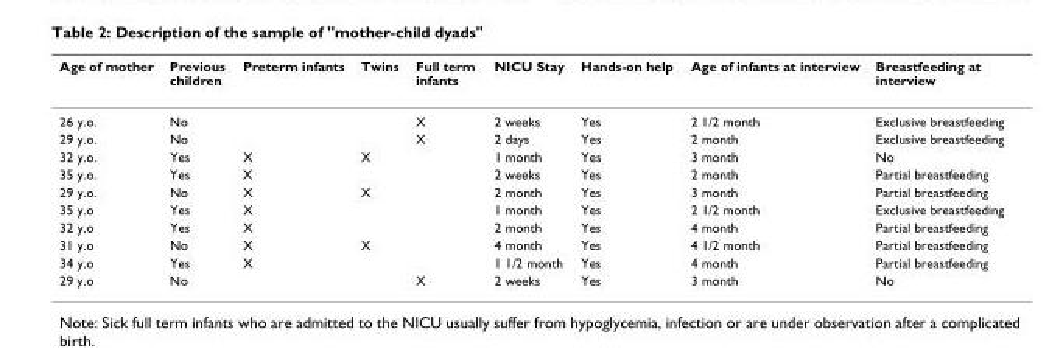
<table><thead><tr><td>Age of mother</td><td>Previous children</td><td>Preterm infants</td><td>Twins</td><td>Full term infants</td><td>NICU Stay</td><td>Hands-on help</td><td>Age of infants at interview</td><td>Breastfeeding at interview</td></tr></thead><tbody><tr><td>26 y.o.</td><td>No</td><td></td><td></td><td>X</td><td>2 weeks</td><td>Yes</td><td>2 1/2 month</td><td>Exclusive breastfeeding</td></tr><tr><td>29 y.o.</td><td>No</td><td></td><td></td><td>X</td><td>2 days</td><td>Yes</td><td>2 month</td><td>Exclusive breastfeeding</td></tr><tr><td>32 y.o.</td><td>Yes</td><td>X</td><td>X</td><td></td><td>1 month</td><td>Yes</td><td>3 month</td><td>No</td></tr><tr><td>35 y.o.</td><td>Yes</td><td>X</td><td></td><td></td><td>2 weeks</td><td>Yes</td><td>2 month</td><td>Partial breastfeeding</td></tr><tr><td>29 y.o.</td><td>No</td><td>X</td><td>X</td><td></td><td>2 month</td><td>Yes</td><td>3 month</td><td>Partial breastfeeding</td></tr><tr><td>35 y.o</td><td>Yes</td><td>X</td><td></td><td></td><td>1 month</td><td>Yes</td><td>2 1/2 month</td><td>Exclusive breastfeeding</td></tr><tr><td>32 y.o</td><td>Yes</td><td>X</td><td></td><td></td><td>2 month</td><td>Yes</td><td>4 month</td><td>Partial breastfeeding</td></tr><tr><td>31 y.o</td><td>No</td><td>X</td><td>X</td><td></td><td>4 month</td><td>Yes</td><td>4 1/2 month</td><td>Partial breastfeeding</td></tr><tr><td>34 y.o</td><td>Yes</td><td>X</td><td></td><td></td><td>1 1/2 month</td><td>Yes</td><td>4 month</td><td>Partial breastfeeding</td></tr><tr><td>29 y.o</td><td>No</td><td></td><td></td><td>X</td><td>2 weeks</td><td>Yes</td><td>3 month</td><td>No</td></tr></tbody></table>